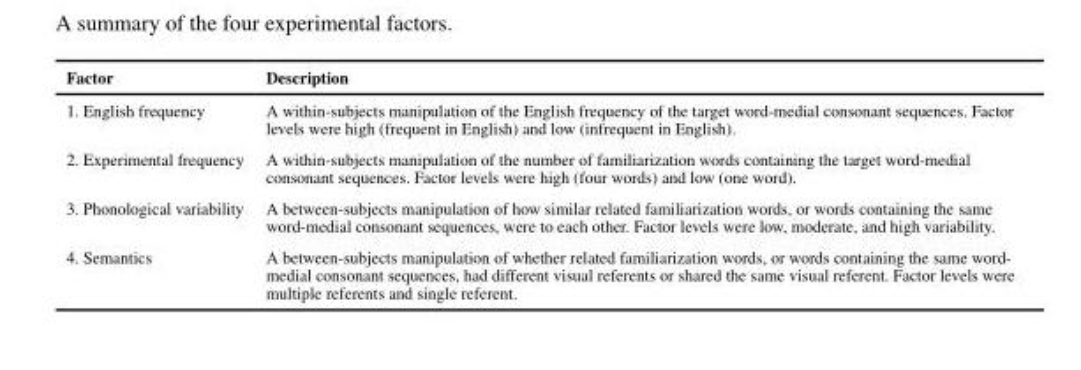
<table><thead><tr><td>Factor</td><td>Description</td></tr></thead><tbody><tr><td>1. English frequency</td><td>A within-subjects manipulation of the English frequency of the target word-medial consonant sequences. Factor levels were high (frequent in English) and low (infrequent in English).</td></tr><tr><td>2. Experimental frequency</td><td>A within-subjects manipulation of the number of familiarization words containing the target word-medial consonant sequences. Factor levels were high (four words) and low (one word).</td></tr><tr><td>3. Phonological variability</td><td>A between-subjects manipulation of how similar related familiarization words, or words containing the same word-medial consonant sequences, were to each other. Factor levels were low, moderate, and high variability.</td></tr><tr><td>4. Semantics</td><td>A between-subjects manipulation of whether related familiarization words, or words containing the same word- medial consonant sequences, had different visual referents or shared the same visual referent. Factor levels were multiple referents and single referent.</td></tr></tbody></table>